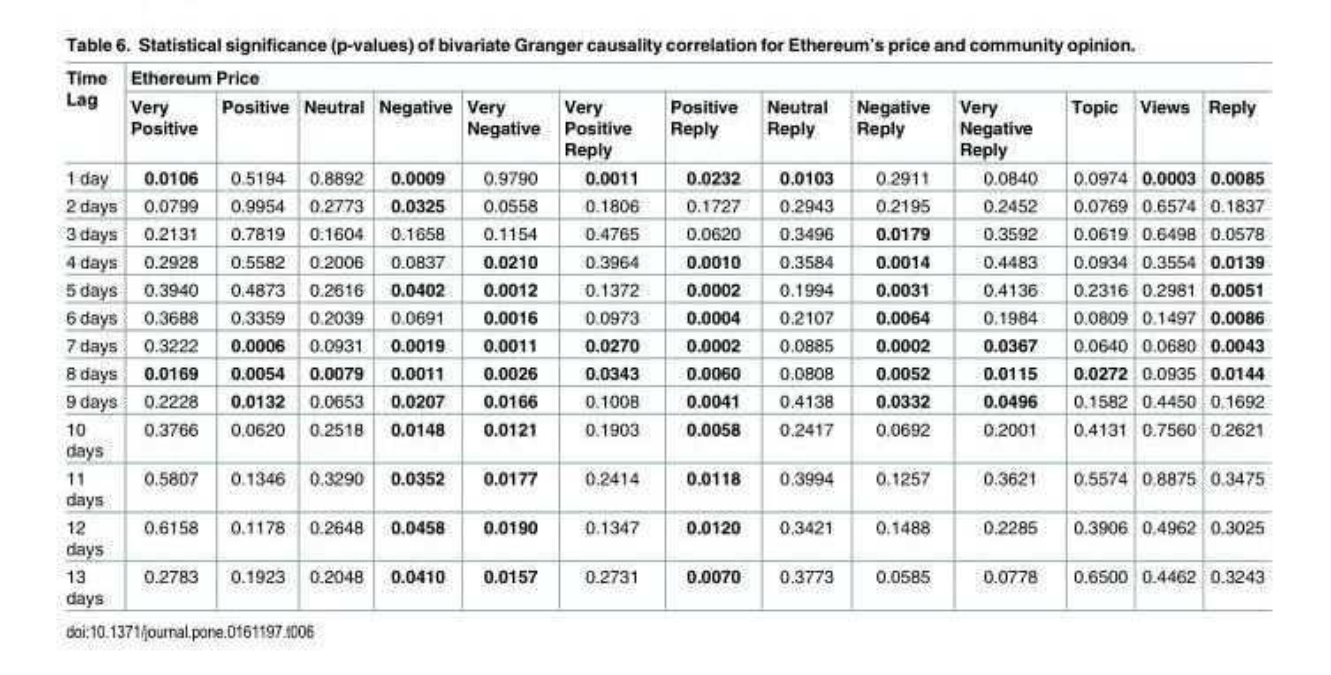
<table><thead><tr><td rowspan="2">Time Lag</td><td colspan="13">Ethereum Price</td></tr><tr><td>Very Positive</td><td>Positive</td><td>Neutral</td><td>Negative</td><td>Very Negative</td><td>Very Positive Reply</td><td>Positive Reply</td><td>Neutral Reply</td><td>Negative Reply</td><td>Very Negative Reply</td><td>Topic</td><td>Views</td><td>Reply</td></tr></thead><tbody><tr><td>1 day</td><td>0.0106</td><td>0.5194</td><td>0.8892</td><td>0.0009</td><td>0.9790</td><td>0.0011</td><td>0.0232</td><td>0.0103</td><td>0.2911</td><td>0.0840</td><td>0.0974</td><td>0.0003</td><td>0.0085</td></tr><tr><td>2 days</td><td>0.0799</td><td>0.9954</td><td>0.2773</td><td>0.0325</td><td>0.0558</td><td>0.1806</td><td>0.1727</td><td>0.2943</td><td>0.2195</td><td>0.2452</td><td>0.0769</td><td>0.6574</td><td>0.1837</td></tr><tr><td>3 days</td><td>0.2131</td><td>0.7819</td><td>0.1604</td><td>0.1658</td><td>0.1154</td><td>0.4765</td><td>0.0620</td><td>0.3496</td><td>0.0179</td><td>0.3592</td><td>0.0619</td><td>0.6498</td><td>0.0578</td></tr><tr><td>4 days</td><td>0.2928</td><td>0.5582</td><td>0.2006</td><td>0.0837</td><td>0.0210</td><td>0.3964</td><td>0.0010</td><td>0.3584</td><td>0.0014</td><td>0.4483</td><td>0.0934</td><td>0.3554</td><td>0.0139</td></tr><tr><td>5 days</td><td>0.3940</td><td>0.4873</td><td>0.2616</td><td>0.0402</td><td>0.0012</td><td>0.1372</td><td>0.0002</td><td>0.1994</td><td>0.0031</td><td>0.4136</td><td>0.2316</td><td>0.2981</td><td>0.0051</td></tr><tr><td>6 days</td><td>0.3688</td><td>0.3359</td><td>0.2039</td><td>0.0691</td><td>0.0016</td><td>0.0973</td><td>0.0004</td><td>0.2107</td><td>0.0064</td><td>0.1984</td><td>0.0809</td><td>0.1497</td><td>0.0086</td></tr><tr><td>7 days</td><td>0.3222</td><td>0.0006</td><td>0.0931</td><td>0.0019</td><td>0.0011</td><td>0.0270</td><td>0.0002</td><td>0.0885</td><td>0.0002</td><td>0.0367</td><td>0.0640</td><td>0.0680</td><td>0.0043</td></tr><tr><td>8 days</td><td>0.0169</td><td>0.0054</td><td>0.0079</td><td>0.0011</td><td>0.0026</td><td>0.0343</td><td>0.0060</td><td>0.0808</td><td>0.0052</td><td>0.0115</td><td>0.0272</td><td>0.0935</td><td>0.0144</td></tr><tr><td>9 days</td><td>0.2228</td><td>0.0132</td><td>0.0653</td><td>0.0207</td><td>0.0166</td><td>0.1008</td><td>0.0041</td><td>0.4138</td><td>0.0332</td><td>0.0496</td><td>0.1582</td><td>0.4450</td><td>0.1692</td></tr><tr><td>10 days</td><td>0.3766</td><td>0.0620</td><td>0.2518</td><td>0.0148</td><td>0.0121</td><td>0.1903</td><td>0.0058</td><td>0.2417</td><td>0.0692</td><td>0.2001</td><td>0.4131</td><td>0.7560</td><td>0.2621</td></tr><tr><td>11 days</td><td>0.5807</td><td>0.1346</td><td>0.3290</td><td>0.0352</td><td>0.0177</td><td>0.2414</td><td>0.0118</td><td>0.3994</td><td>0.1257</td><td>0.3621</td><td>0.5574</td><td>0.8875</td><td>0.3475</td></tr><tr><td>12 days</td><td>0.6158</td><td>0.1178</td><td>0.2648</td><td>0.0458</td><td>0.0190</td><td>0.1347</td><td>0.0120</td><td>0.3421</td><td>0.1488</td><td>0.2285</td><td>0.3906</td><td>0.4962</td><td>0.3025</td></tr><tr><td>13 days</td><td>0.2783</td><td>0.1923</td><td>0.2048</td><td>0.0410</td><td>0.0157</td><td>0.2731</td><td>0.0070</td><td>0.3773</td><td>0.0585</td><td>0.0778</td><td>0.6500</td><td>0.4462</td><td>0.3243</td></tr></tbody></table>